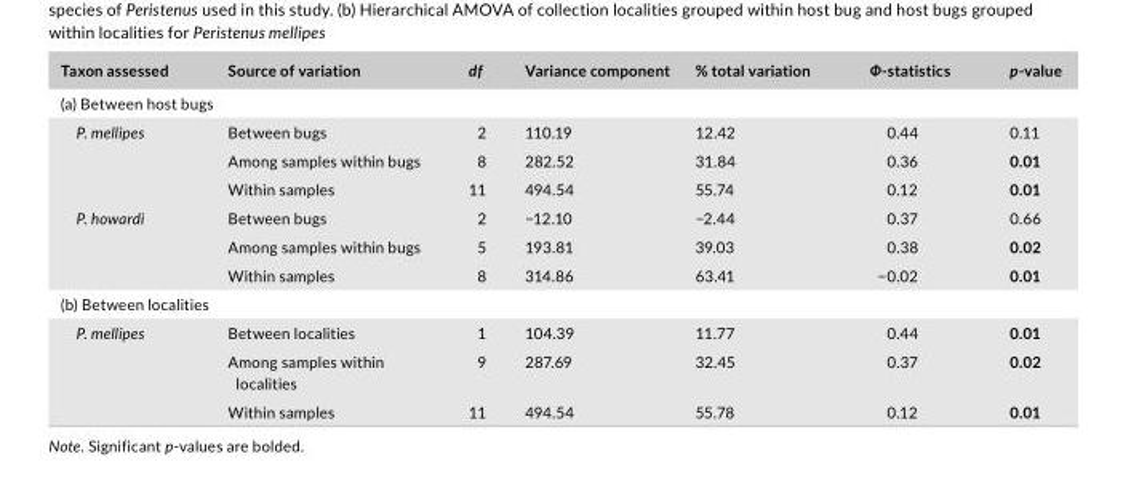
<table><thead><tr><td>Taxon assessed</td><td>Source of variation</td><td>df</td><td>Variance component</td><td>% total variation</td><td>Ф- statistics</td><td>p- value</td></tr></thead><tbody><tr><td colspan="7">(a) Between host bugs</td></tr><tr><td rowspan="3">P. mellipes</td><td>Between bugs</td><td>2</td><td>110.19</td><td>12.42</td><td>0.44</td><td>0.11</td></tr><tr><td>Among samples within bugs</td><td>8</td><td>282.52</td><td>31.84</td><td>0.36</td><td>0.01</td></tr><tr><td>Within samples</td><td>11</td><td>494.54</td><td>55.74</td><td>0.12</td><td>0.01</td></tr><tr><td rowspan="3">P. howardi</td><td>Between bugs</td><td>2</td><td>−12.10</td><td>−2.44</td><td>0.37</td><td>0.66</td></tr><tr><td>Among samples within bugs</td><td>5</td><td>193.81</td><td>39.03</td><td>0.38</td><td>0.02</td></tr><tr><td>Within samples</td><td>8</td><td>314.86</td><td>63.41</td><td>−0.02</td><td>0.01</td></tr><tr><td colspan="7">(b) Between localities</td></tr><tr><td rowspan="3">P. mellipes</td><td>Between localities</td><td>1</td><td>104.39</td><td>11.77</td><td>0.44</td><td>0.01</td></tr><tr><td>Among samples within localities</td><td>9</td><td>287.69</td><td>32.45</td><td>0.37</td><td>0.02</td></tr><tr><td>Within samples</td><td>11</td><td>494.54</td><td>55.78</td><td>0.12</td><td>0.01</td></tr></tbody></table>